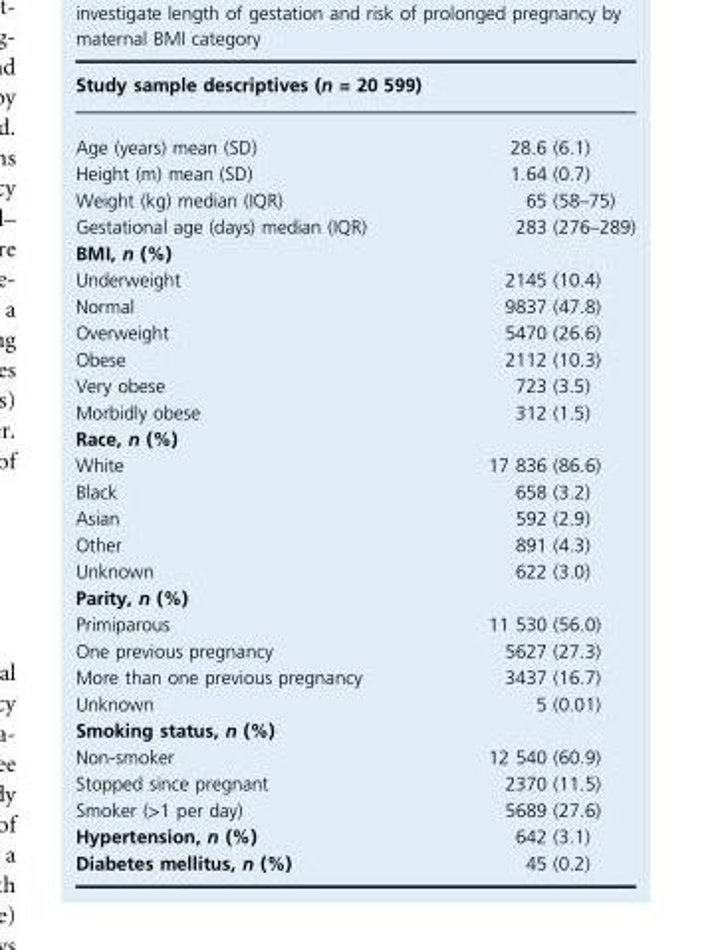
<table><thead><tr><td colspan="2">Study sample descriptives (n = 20 599)</td></tr><tr><td>Age (years) mean (SD)</td><td>28.6 (6.1)</td></tr></thead><tbody><tr><td>Height (m) mean (SD)</td><td>1.64 (0.7)</td></tr><tr><td>Weight (kg) median (IQR)</td><td>65 (58–75)</td></tr><tr><td>Gestational age (days) median (IQR)</td><td>283 (276–289)</td></tr><tr><td colspan="2">BMI, n (%)</td></tr><tr><td>Underweight</td><td>2145 (10.4)</td></tr><tr><td>Normal</td><td>9837 (47.8)</td></tr><tr><td>Overweight</td><td>5470 (26.6)</td></tr><tr><td>Obese</td><td>2112 (10.3)</td></tr><tr><td>Very obese</td><td>723 (3.5)</td></tr><tr><td>Morbidly obese</td><td>312 (1.5)</td></tr><tr><td colspan="2">Race, n (%)</td></tr><tr><td>White</td><td>17 836 (86.6)</td></tr><tr><td>Black</td><td>658 (3.2)</td></tr><tr><td>Asian</td><td>592 (2.9)</td></tr><tr><td>Other</td><td>891 (4.3)</td></tr><tr><td>Unknown</td><td>622 (3.0)</td></tr><tr><td colspan="2">Parity, n (%)</td></tr><tr><td>Primiparous</td><td>11 530 (56.0)</td></tr><tr><td>One previous pregnancy</td><td>5627 (27.3)</td></tr><tr><td>More than one previous pregnancy</td><td>3437 (16.7)</td></tr><tr><td>Unknown</td><td>5 (0.01)</td></tr><tr><td colspan="2">Smoking status, n (%)</td></tr><tr><td>Non-smoker</td><td>12 540 (60.9)</td></tr><tr><td>Stopped since pregnant</td><td>2370 (11.5)</td></tr><tr><td>Smoker (&gt;1 per day)</td><td>5689 (27.6)</td></tr><tr><td>Hypertension, n (%)</td><td>642 (3.1)</td></tr><tr><td>Diabetes mellitus, n (%)</td><td>45 (0.2)</td></tr></tbody></table>